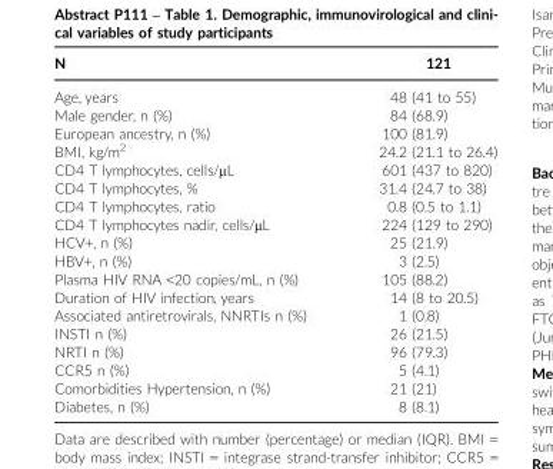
<table><thead><tr><td>N</td><td>121</td></tr></thead><tbody><tr><td>Age, years</td><td>48 (41 to 55)</td></tr><tr><td>Male gender, n (%)</td><td>84 (68.9)</td></tr><tr><td>European ancestry, n (%)</td><td>100 (81.9)</td></tr><tr><td>BMI, kg/m<sup>2</sup></td><td>24.2 (21.1 to 26.4)</td></tr><tr><td>CD4 T lymphocytes, cells/μL</td><td>601 (437 to 820)</td></tr><tr><td>CD4 T lymphocytes, %</td><td>31.4 (24.7 to 38)</td></tr><tr><td>CD4 T lymphocytes, ratio</td><td>0.8 (0.5 to 1.1)</td></tr><tr><td>CD4 T lymphocytes nadir, cells/μL</td><td>224 (129 to 290)</td></tr><tr><td>HCV+, n (%)</td><td>25 (21.9)</td></tr><tr><td>HBV+, n (%)</td><td>3 (2.5)</td></tr><tr><td>Plasma HIV RNA &lt;20 copies/mL, n (%)</td><td>105 (88.2)</td></tr><tr><td>Duration of HIV infection, years</td><td>14 (8 to 20.5)</td></tr><tr><td>Associated antiretrovirals, NNRTIs n (%)</td><td>1 (0.8)</td></tr><tr><td>INSTI n (%)</td><td>26 (21.5)</td></tr><tr><td>NRTI n (%)</td><td>96 (79.3)</td></tr><tr><td>CCR5 n (%)</td><td>5 (4.1)</td></tr><tr><td>Comorbidities Hypertension, n (%)</td><td>21 (21)</td></tr><tr><td>Diabetes, n (%)</td><td>8 (8.1)</td></tr></tbody></table>